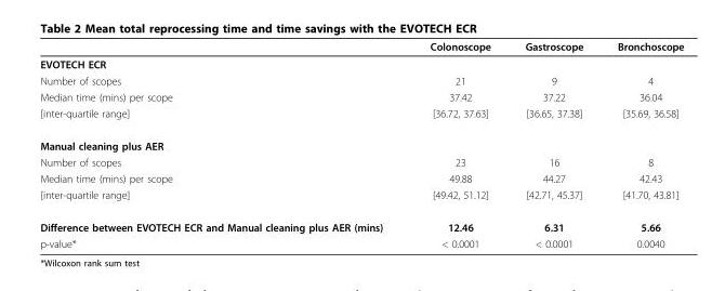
<table><thead><tr><td></td><td>Colonoscope</td><td>Gastroscope</td><td>Bronchoscope</td></tr></thead><tbody><tr><td colspan="4">EVOTECH ECR</td></tr><tr><td>Number of scopes</td><td>21</td><td>9</td><td>4</td></tr><tr><td>Median time (mins) per scope</td><td>37.42</td><td>37.22</td><td>36.04</td></tr><tr><td>[inter-quartile range]</td><td>[36.72, 37.63]</td><td>[36.65, 37.38]</td><td>[35.69, 36.58]</td></tr><tr><td colspan="4">Manual cleaning plus AER</td></tr><tr><td>Number of scopes</td><td>23</td><td>16</td><td>8</td></tr><tr><td>Median time (mins) per scope</td><td>49.88</td><td>44.27</td><td>42.43</td></tr><tr><td>[inter-quartile range]</td><td>[49.42, 51.12]</td><td>[42.71, 45.37]</td><td>[41.70, 43.81]</td></tr><tr><td>Difference between EVOTECH ECR and Manual cleaning plus AER (mins)</td><td>12.46</td><td>6.31</td><td>5.66</td></tr><tr><td>p-value*</td><td>&lt; 0.0001</td><td>&lt; 0.0001</td><td>0.0040</td></tr></tbody></table>